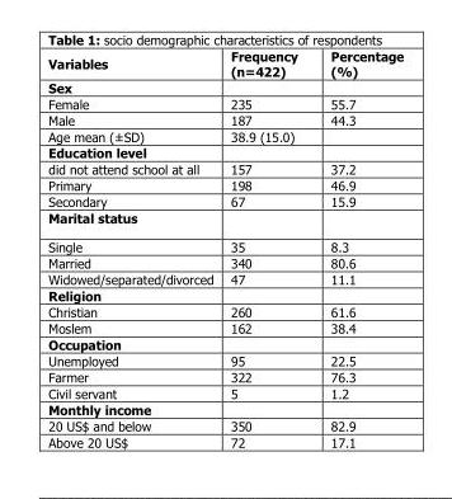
<table><thead><tr><td>Variables</td><td>Frequency (n=422)</td><td>Percentage (%)</td></tr></thead><tbody><tr><td colspan="3">Sex</td></tr><tr><td>Female</td><td>235</td><td>55.7</td></tr><tr><td>Male</td><td>187</td><td>44.3</td></tr><tr><td>Age mean (±SD)</td><td>38.9 (15.0)</td><td></td></tr><tr><td colspan="3">Education level</td></tr><tr><td>did not attend school at all</td><td>157</td><td>37.2</td></tr><tr><td>Primary</td><td>198</td><td>46.9</td></tr><tr><td>Secondary</td><td>67</td><td>15.9</td></tr><tr><td colspan="3">Marital status</td></tr><tr><td>Single</td><td>35</td><td>8.3</td></tr><tr><td>Married</td><td>340</td><td>80.6</td></tr><tr><td>Widowed/separated/divorced</td><td>47</td><td>11.1</td></tr><tr><td colspan="3">Religion</td></tr><tr><td>Christian</td><td>260</td><td>61.6</td></tr><tr><td>Moslem</td><td>162</td><td>38.4</td></tr><tr><td colspan="3">Occupation</td></tr><tr><td>Unemployed</td><td>95</td><td>22.5</td></tr><tr><td>Farmer</td><td>322</td><td>76.3</td></tr><tr><td>Civil servant</td><td>5</td><td>1.2</td></tr><tr><td colspan="3">Monthly income</td></tr><tr><td>20 US$ and below</td><td>350</td><td>82.9</td></tr><tr><td>Above 20 US$</td><td>72</td><td>17.1</td></tr></tbody></table>